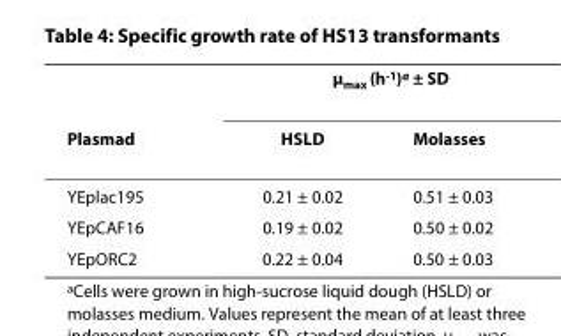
<table><thead><tr><td rowspan="2">Plasmad</td><td colspan="2">μ<sub>max</sub> (h<sup>-1</sup>)<sup>a</sup> ± SD</td></tr><tr><td>HSLD</td><td>Molasses</td></tr></thead><tbody><tr><td>YEplac195</td><td>0.21 ± 0.02</td><td>0.51 ± 0.03</td></tr><tr><td>YEpCAF16</td><td>0.19 ± 0.02</td><td>0.50 ± 0.02</td></tr><tr><td>YEpORC2</td><td>0.22 ± 0.04</td><td>0.50 ± 0.03</td></tr></tbody></table>